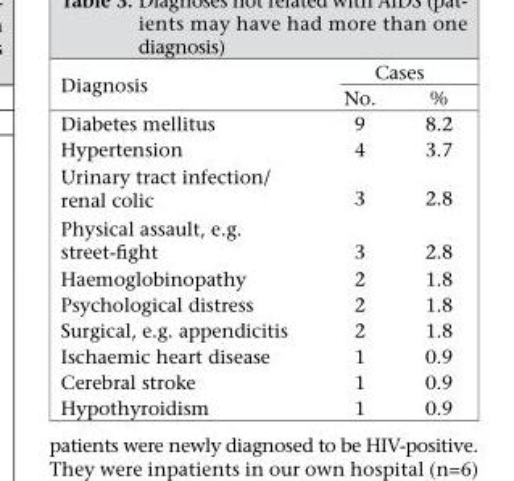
<table><thead><tr><td rowspan="2">Diagnosis</td><td colspan="2">Cases</td></tr><tr><td>No.</td><td>%</td></tr></thead><tbody><tr><td>Diabetes mellitus</td><td>9</td><td>8.2</td></tr><tr><td>Hypertension</td><td>4</td><td>3.7</td></tr><tr><td>Urinary tract infection/ renal colic</td><td>3</td><td>2.8</td></tr><tr><td>Physical assault, e.g. street-fight</td><td>3</td><td>2.8</td></tr><tr><td>Haemoglobinopathy</td><td>2</td><td>1.8</td></tr><tr><td>Psychological distress</td><td>2</td><td>1.8</td></tr><tr><td>Surgical, e.g. appendicitis</td><td>2</td><td>1.8</td></tr><tr><td>Ischaemic heart disease</td><td>1</td><td>0.9</td></tr><tr><td>Cerebral stroke</td><td>1</td><td>0.9</td></tr><tr><td>Hypothyroidism</td><td>1</td><td>0.9</td></tr></tbody></table>